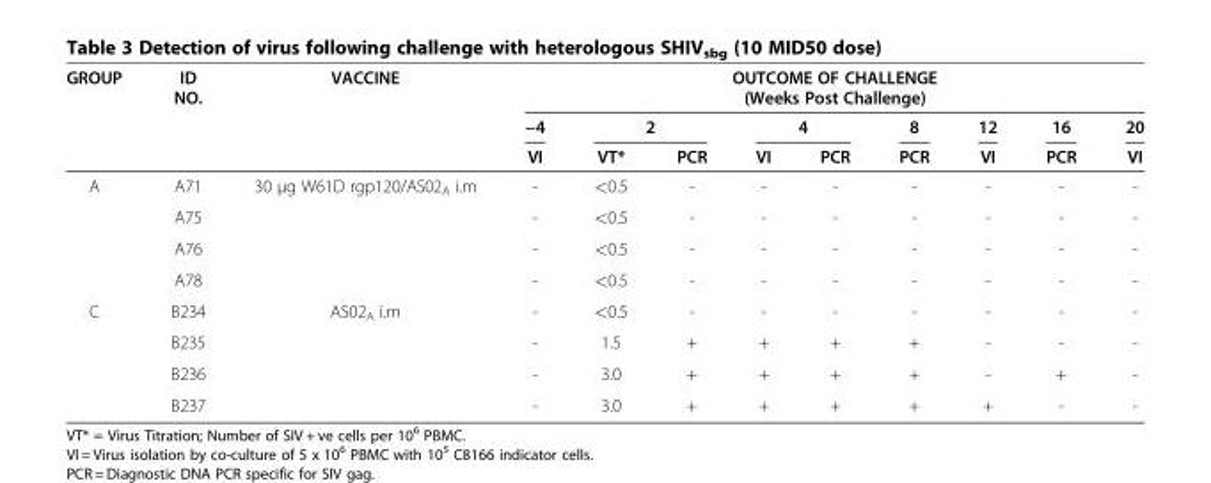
<table><thead><tr><td rowspan="3">GROUP</td><td rowspan="3">ID NO.</td><td rowspan="3">VACCINE</td><td colspan="9">OUTCOME OF CHALLENGE (Weeks Post Challenge)</td></tr><tr><td rowspan="2">−4 VI</td><td colspan="2">2</td><td colspan="2">4</td><td rowspan="2">8 PCR</td><td rowspan="2">12 VI</td><td rowspan="2">16 PCR</td><td rowspan="2">20 VI</td></tr><tr><td>VT*</td><td>PCR</td><td>VI</td><td>PCR</td></tr></thead><tbody><tr><td rowspan="4">A</td><td>A71</td><td>30 μg W61D rgp120/AS02<sub>A</sub> i.m</td><td>-</td><td>&lt;0.5</td><td>-</td><td>-</td><td>-</td><td>-</td><td>-</td><td>-</td><td>-</td></tr><tr><td>A75</td><td></td><td>-</td><td>&lt;0.5</td><td>-</td><td>-</td><td>-</td><td>-</td><td>-</td><td>-</td><td>-</td></tr><tr><td>A76</td><td></td><td>-</td><td>&lt;0.5</td><td>-</td><td>-</td><td>-</td><td>-</td><td>-</td><td>-</td><td>-</td></tr><tr><td>A78</td><td></td><td>-</td><td>&lt;0.5</td><td>-</td><td>-</td><td>-</td><td>-</td><td>-</td><td>-</td><td>-</td></tr><tr><td rowspan="4">C</td><td>B234</td><td>AS02<sub>A</sub> i.m</td><td>-</td><td>&lt;0.5</td><td>-</td><td>-</td><td>-</td><td>-</td><td>-</td><td>-</td><td>-</td></tr><tr><td>B235</td><td></td><td>-</td><td>1.5</td><td>+</td><td>+</td><td>+</td><td>+</td><td>-</td><td>-</td><td>-</td></tr><tr><td>B236</td><td></td><td>-</td><td>3.0</td><td>+</td><td>+</td><td>+</td><td>+</td><td>-</td><td>+</td><td>-</td></tr><tr><td>B237</td><td></td><td>-</td><td>3.0</td><td>+</td><td>+</td><td>+</td><td>+</td><td>+</td><td>-</td><td>-</td></tr></tbody></table>